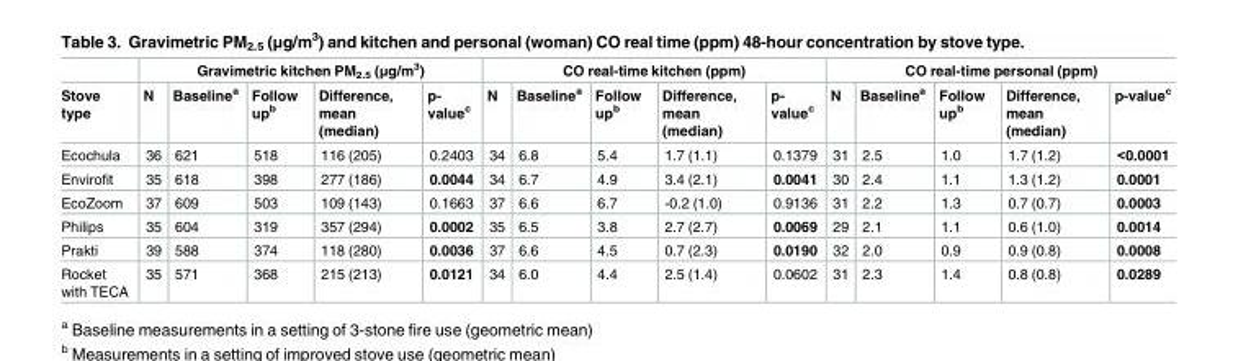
<table><thead><tr><td rowspan="2">Stove type</td><td colspan="5">Gravimetric kitchen PM<sub>2.5</sub> (μg/m<sup>3</sup>)</td><td colspan="5">CO real-time kitchen (ppm)</td><td colspan="5">CO real-time personal (ppm)</td></tr><tr><td>N</td><td>Baseline<sup>a</sup></td><td>Follow up<sup>b</sup></td><td>Difference, mean (median)</td><td>p- value<sup>c</sup></td><td>N</td><td>Baseline<sup>a</sup></td><td>Follow up<sup>b</sup></td><td>Difference, mean (median)</td><td>p- value<sup>c</sup></td><td>N</td><td>Baseline<sup>a</sup></td><td>Follow up<sup>b</sup></td><td>Difference, mean (median)</td><td>p-value<sup>c</sup></td></tr></thead><tbody><tr><td>Ecochula</td><td>36</td><td>621</td><td>518</td><td>116 (205)</td><td>0.2403</td><td>34</td><td>6.8</td><td>5.4</td><td>1.7 (1.1)</td><td>0.1379</td><td>31</td><td>2.5</td><td>1.0</td><td>1.7 (1.2)</td><td>&lt;0.0001</td></tr><tr><td>Envirofit</td><td>35</td><td>618</td><td>398</td><td>277 (186)</td><td>0.0044</td><td>34</td><td>6.7</td><td>4.9</td><td>3.4 (2.1)</td><td>0.0041</td><td>30</td><td>2.4</td><td>1.1</td><td>1.3 (1.2)</td><td>0.0001</td></tr><tr><td>EcoZoom</td><td>37</td><td>609</td><td>503</td><td>109 (143)</td><td>0.1663</td><td>37</td><td>6.6</td><td>6.7</td><td>-0.2 (1.0)</td><td>0.9136</td><td>31</td><td>2.2</td><td>1.3</td><td>0.7 (0.7)</td><td>0.0003</td></tr><tr><td>Philips</td><td>35</td><td>604</td><td>319</td><td>357 (294)</td><td>0.0002</td><td>35</td><td>6.5</td><td>3.8</td><td>2.7 (2.7)</td><td>0.0069</td><td>29</td><td>2.1</td><td>1.1</td><td>0.6 (1.0)</td><td>0.0014</td></tr><tr><td>Prakti</td><td>39</td><td>588</td><td>374</td><td>118 (280)</td><td>0.0036</td><td>37</td><td>6.6</td><td>4.5</td><td>0.7 (2.3)</td><td>0.0190</td><td>32</td><td>2.0</td><td>0.9</td><td>0.9 (0.8)</td><td>0.0008</td></tr><tr><td>Rocket with TECA</td><td>35</td><td>571</td><td>368</td><td>215 (213)</td><td>0.0121</td><td>34</td><td>6.0</td><td>4.4</td><td>2.5 (1.4)</td><td>0.0602</td><td>31</td><td>2.3</td><td>1.4</td><td>0.8 (0.8)</td><td>0.0289</td></tr></tbody></table>